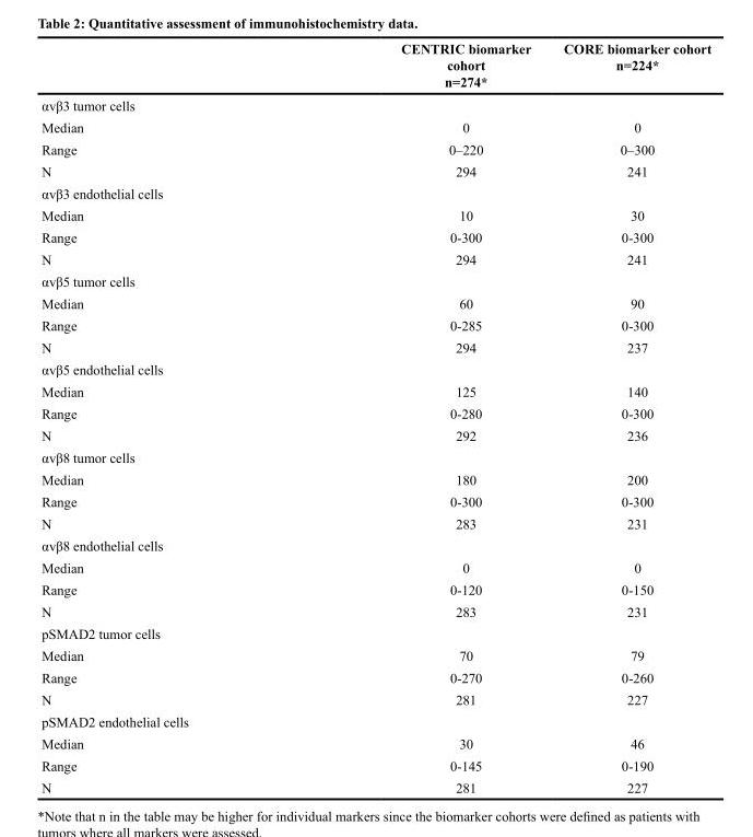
<table><thead><tr><td></td><td>CENTRIC biomarker cohort n=274*</td><td>CORE biomarker cohort n=224*</td></tr></thead><tbody><tr><td colspan="3">αvβ3 tumor cells</td></tr><tr><td>Median</td><td>0</td><td>0</td></tr><tr><td>Range</td><td>0–220</td><td>0–300</td></tr><tr><td>N</td><td>294</td><td>241</td></tr><tr><td colspan="3">αvβ3 endothelial cells</td></tr><tr><td>Median</td><td>10</td><td>30</td></tr><tr><td>Range</td><td>0-300</td><td>0-300</td></tr><tr><td>N</td><td>294</td><td>241</td></tr><tr><td colspan="3">αvβ5 tumor cells</td></tr><tr><td>Median</td><td>60</td><td>90</td></tr><tr><td>Range</td><td>0-285</td><td>0-300</td></tr><tr><td>N</td><td>294</td><td>237</td></tr><tr><td colspan="3">αvβ5 endothelial cells</td></tr><tr><td>Median</td><td>125</td><td>140</td></tr><tr><td>Range</td><td>0-280</td><td>0-300</td></tr><tr><td>N</td><td>292</td><td>236</td></tr><tr><td colspan="3">αvβ8 tumor cells</td></tr><tr><td>Median</td><td>180</td><td>200</td></tr><tr><td>Range</td><td>0-300</td><td>0-300</td></tr><tr><td>N</td><td>283</td><td>231</td></tr><tr><td colspan="3">αvβ8 endothelial cells</td></tr><tr><td>Median</td><td>0</td><td>0</td></tr><tr><td>Range</td><td>0-120</td><td>0-150</td></tr><tr><td>N</td><td>283</td><td>231</td></tr><tr><td colspan="3">pSMAD2 tumor cells</td></tr><tr><td>Median</td><td>70</td><td>79</td></tr><tr><td>Range</td><td>0-270</td><td>0-260</td></tr><tr><td>N</td><td>281</td><td>227</td></tr><tr><td colspan="3">pSMAD2 endothelial cells</td></tr><tr><td>Median</td><td>30</td><td>46</td></tr><tr><td>Range</td><td>0-145</td><td>0-190</td></tr><tr><td>N</td><td>281</td><td>227</td></tr></tbody></table>